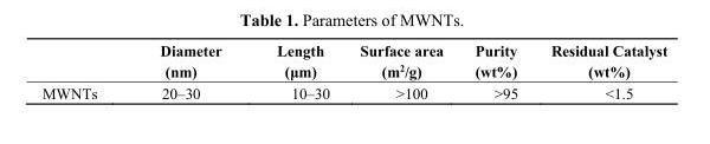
<table><thead><tr><td></td><td>Diameter (nm)</td><td>Length (μm)</td><td>Surface area (m<sup>2</sup>/g)</td><td>Purity (wt%)</td><td>Residual Catalyst (wt%)</td></tr></thead><tbody><tr><td>MWNTs</td><td>20–30</td><td>10–30</td><td>&gt;100</td><td>&gt;95</td><td>&lt;1.5</td></tr></tbody></table>